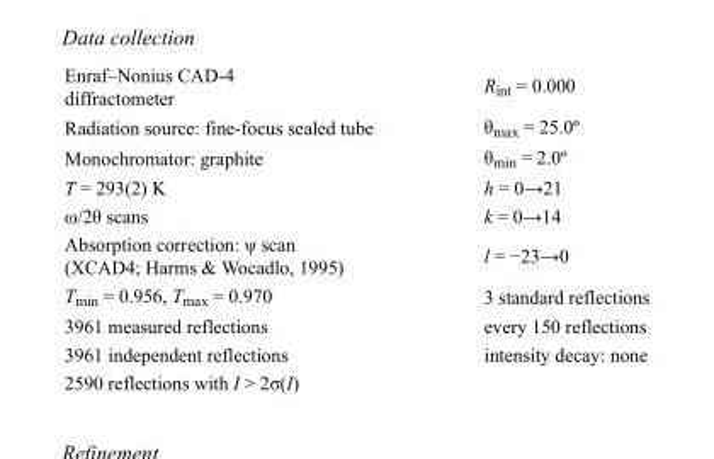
<table><tbody><tr><td>Enraf–Nonius CAD-4 diffractometer</td><td>R<sub>int</sub> = 0.000</td></tr><tr><td>Radiation source: fine-focus sealed tube</td><td>θ<sub>max</sub> = 25.0º</td></tr><tr><td>Monochromator: graphite</td><td>θ<sub>min</sub> = 2.0º</td></tr><tr><td>T = 293(2) K</td><td>h = 0→21</td></tr><tr><td>ω/2θ scans</td><td>k = 0→14</td></tr><tr><td>Absorption correction: ψ scan (XCAD4; Harms &amp; Wocadlo, 1995)</td><td>l = −23→0</td></tr><tr><td>T<sub>min</sub> = 0.956, T<sub>max</sub> = 0.970</td><td>3 standard reflections</td></tr><tr><td>3961 measured reflections</td><td>every 150 reflections</td></tr><tr><td>3961 independent reflections</td><td>intensity decay: none</td></tr><tr><td>2590 reflections with I &gt; 2σ(I)</td><td></td></tr></tbody></table>